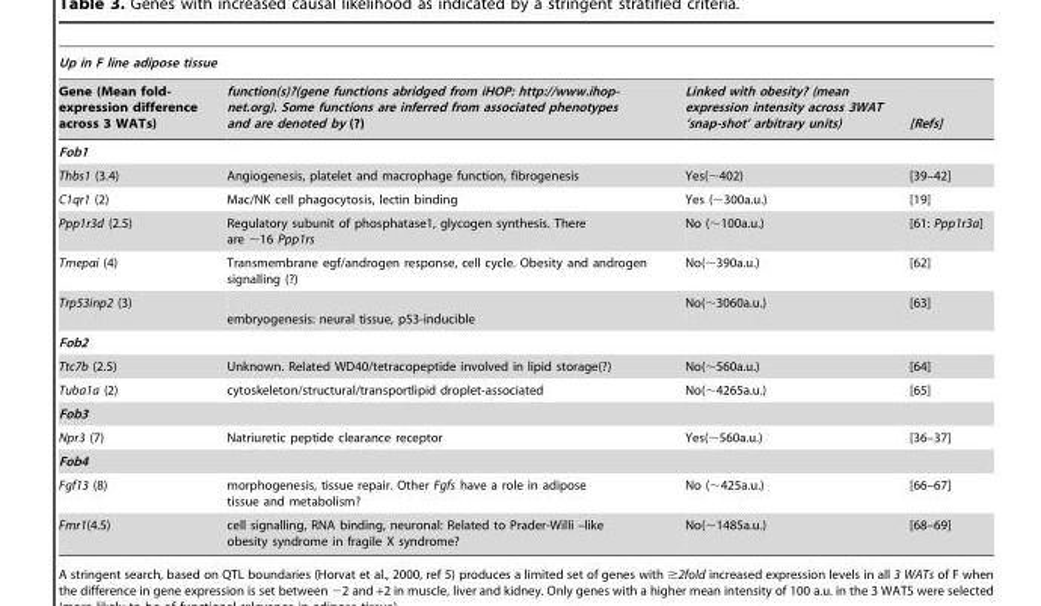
<table><thead><tr><td colspan="4">Up in F line adipose tissue</td></tr><tr><td>Gene (Mean fold- expression difference across 3 WATs)</td><td>function(s)?(gene functions abridged from iHOP: http://www.ihop- net.org). Some functions are inferred from associated phenotypes and are denoted by (?)</td><td>Linked with obesity? (mean expression intensity across 3WAT ‘snap-shot’ arbitrary units)</td><td>[Refs]</td></tr></thead><tbody><tr><td colspan="4">Fob1</td></tr><tr><td>Thbs1 (3.4)</td><td>Angiogenesis, platelet and macrophage function, fibrogenesis</td><td>Yes(∼402)</td><td>[39–42]</td></tr><tr><td>C1qr1 (2)</td><td>Mac/NK cell phagocytosis, lectin binding</td><td>Yes (∼300a.u.)</td><td>[19]</td></tr><tr><td>Ppp1r3d (2.5)</td><td>Regulatory subunit of phosphatase1, glycogen synthesis. There are ∼16 Ppp1rs</td><td>No (∼100a.u.)</td><td>[61: Ppp1r3a]</td></tr><tr><td>Tmepai (4)</td><td>Transmembrane egf/androgen response, cell cycle. Obesity and androgen signalling (?)</td><td>No(∼390a.u.)</td><td>[62]</td></tr><tr><td>Trp53inp2 (3)</td><td>embryogenesis: neural tissue, p53-inducible</td><td>No(∼3060a.u.)</td><td>[63]</td></tr><tr><td colspan="4">Fob2</td></tr><tr><td>Ttc7b (2.5)</td><td>Unknown. Related WD40/tetracopeptide involved in lipid storage(?)</td><td>No(∼560a.u.)</td><td>[64]</td></tr><tr><td>Tuba1a (2)</td><td>cytoskeleton/structural/transportlipid droplet-associated</td><td>No(∼4265a.u.)</td><td>[65]</td></tr><tr><td colspan="4">Fob3</td></tr><tr><td>Npr3 (7)</td><td>Natriuretic peptide clearance receptor</td><td>Yes(∼560a.u.)</td><td>[36–37]</td></tr><tr><td colspan="4">Fob4</td></tr><tr><td>Fgf13 (8)</td><td>morphogenesis, tissue repair. Other Fgfs have a role in adipose tissue and metabolism?</td><td>No (∼425a.u.)</td><td>[66–67]</td></tr><tr><td>Fmr1(4.5)</td><td>cell signalling, RNA binding, neuronal: Related to Prader-Willi –like obesity syndrome in fragile X syndrome?</td><td>No(∼1485a.u.)</td><td>[68–69]</td></tr></tbody></table>